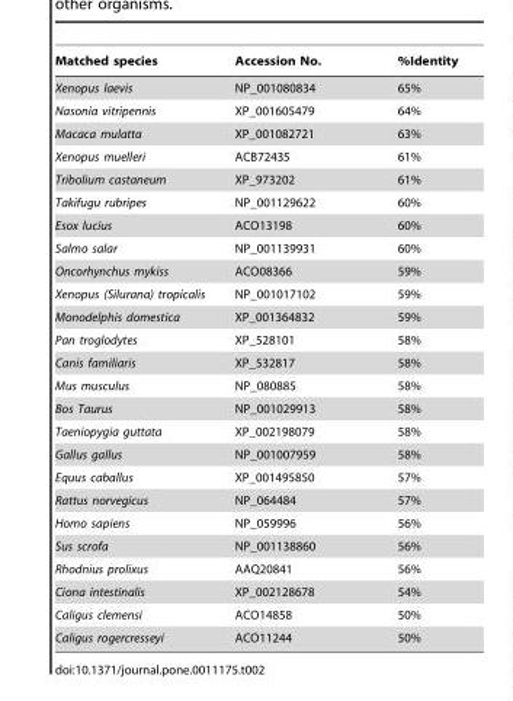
<table><thead><tr><td>Matched species</td><td>Accession No.</td><td>%Identity</td></tr></thead><tbody><tr><td>Xenopus laevis</td><td>NP_001080834</td><td>65%</td></tr><tr><td>Nasonia vitripennis</td><td>XP_001605479</td><td>64%</td></tr><tr><td>Macaca mulatta</td><td>XP_001082721</td><td>63%</td></tr><tr><td>Xenopus muelleri</td><td>ACB72435</td><td>61%</td></tr><tr><td>Tribolium castaneum</td><td>XP_973202</td><td>61%</td></tr><tr><td>Takifugu rubripes</td><td>NP_001129622</td><td>60%</td></tr><tr><td>Esox lucius</td><td>ACO13198</td><td>60%</td></tr><tr><td>Salmo salar</td><td>NP_001139931</td><td>60%</td></tr><tr><td>Oncorhynchus mykiss</td><td>ACO08366</td><td>59%</td></tr><tr><td>Xenopus (Silurana) tropicalis</td><td>NP_001017102</td><td>59%</td></tr><tr><td>Monodelphis domestica</td><td>XP_001364832</td><td>59%</td></tr><tr><td>Pan troglodytes</td><td>XP_528101</td><td>58%</td></tr><tr><td>Canis familiaris</td><td>XP_532817</td><td>58%</td></tr><tr><td>Mus musculus</td><td>NP_080885</td><td>58%</td></tr><tr><td>Bos Taurus</td><td>NP_001029913</td><td>58%</td></tr><tr><td>Taeniopygia guttata</td><td>XP_002198079</td><td>58%</td></tr><tr><td>Gallus gallus</td><td>NP_001007959</td><td>58%</td></tr><tr><td>Equus caballus</td><td>XP_001495850</td><td>57%</td></tr><tr><td>Rattus norvegicus</td><td>NP_064484</td><td>57%</td></tr><tr><td>Homo sapiens</td><td>NP_059996</td><td>56%</td></tr><tr><td>Sus scrofa</td><td>NP_001138860</td><td>56%</td></tr><tr><td>Rhodnius prolixus</td><td>AAQ20841</td><td>56%</td></tr><tr><td>Ciona intestinalis</td><td>XP_002128678</td><td>54%</td></tr><tr><td>Caligus clemensi</td><td>ACO14858</td><td>50%</td></tr><tr><td>Caligus rogercresseyi</td><td>ACO11244</td><td>50%</td></tr></tbody></table>